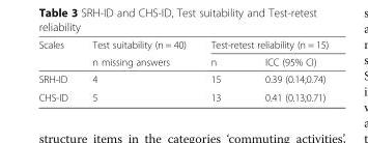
<table><thead><tr><td rowspan="2">Scales</td><td rowspan="2">Test suitability (n = 40) n missing answers</td><td colspan="2">Test-retest reliability (n = 15)</td></tr><tr><td>n</td><td>ICC (95% CI)</td></tr></thead><tbody><tr><td>SRH-ID</td><td>4</td><td>15</td><td>0.39 (0.14;0.74)</td></tr><tr><td>CHS-ID</td><td>5</td><td>13</td><td>0.41 (0.13;0.71)</td></tr></tbody></table>